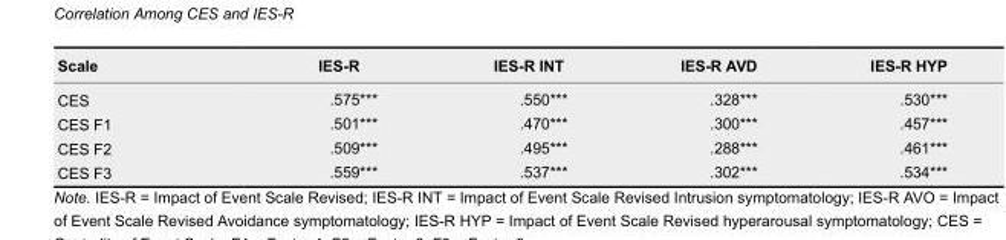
<table><thead><tr><td>Scale</td><td>IES-R</td><td>IES-R INT</td><td>IES-R AVD</td><td>IES-R HYP</td></tr></thead><tbody><tr><td>CES</td><td>.575***</td><td>.550***</td><td>.328***</td><td>.530***</td></tr><tr><td>CES F1</td><td>.501***</td><td>.470***</td><td>.300***</td><td>.457***</td></tr><tr><td>CES F2</td><td>.509***</td><td>.495***</td><td>.288***</td><td>.461***</td></tr><tr><td>CES F3</td><td>.559***</td><td>.537***</td><td>.302***</td><td>.534***</td></tr></tbody></table>